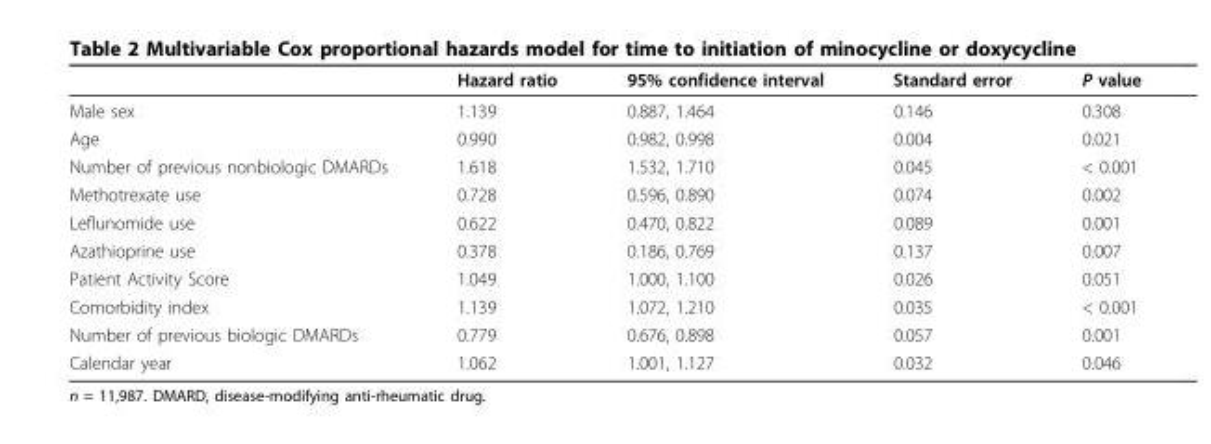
<table><thead><tr><td></td><td>Hazard ratio</td><td>95% confidence interval</td><td>Standard error</td><td>P value</td></tr></thead><tbody><tr><td>Male sex</td><td>1.139</td><td>0.887, 1.464</td><td>0.146</td><td>0.308</td></tr><tr><td>Age</td><td>0.990</td><td>0.982, 0.998</td><td>0.004</td><td>0.021</td></tr><tr><td>Number of previous nonbiologic DMARDs</td><td>1.618</td><td>1.532, 1.710</td><td>0.045</td><td>&lt; 0.001</td></tr><tr><td>Methotrexate use</td><td>0.728</td><td>0.596, 0.890</td><td>0.074</td><td>0.002</td></tr><tr><td>Leflunomide use</td><td>0.622</td><td>0.470, 0.822</td><td>0.089</td><td>0.001</td></tr><tr><td>Azathioprine use</td><td>0.378</td><td>0.186, 0.769</td><td>0.137</td><td>0.007</td></tr><tr><td>Patient Activity Score</td><td>1.049</td><td>1.000, 1.100</td><td>0.026</td><td>0.051</td></tr><tr><td>Comorbidity index</td><td>1.139</td><td>1.072, 1.210</td><td>0.035</td><td>&lt; 0.001</td></tr><tr><td>Number of previous biologic DMARDs</td><td>0.779</td><td>0.676, 0.898</td><td>0.057</td><td>0.001</td></tr><tr><td>Calendar year</td><td>1.062</td><td>1.001, 1.127</td><td>0.032</td><td>0.046</td></tr></tbody></table>